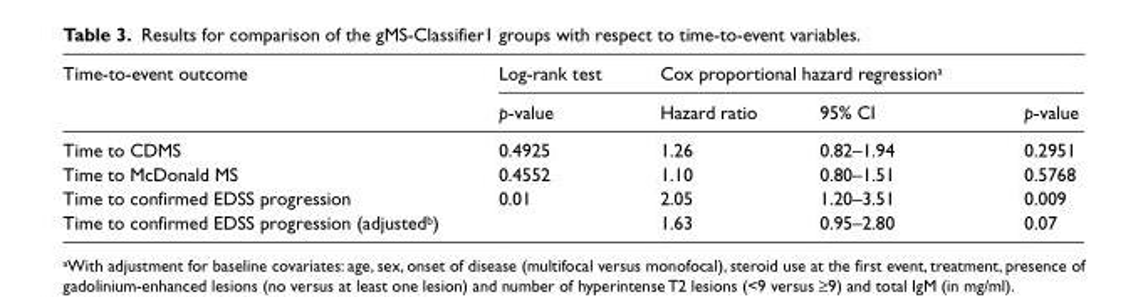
<table><thead><tr><td rowspan="2">Time-to-event outcome</td><td rowspan="2">Log-rank test p-value</td><td colspan="3">Cox proportional hazard regression<sup>a</sup></td></tr><tr><td>Hazard ratio</td><td>95% CI</td><td>p-value</td></tr></thead><tbody><tr><td>Time to CDMS</td><td>0.4925</td><td>1.26</td><td>0.82–1.94</td><td>0.2951</td></tr><tr><td>Time to McDonald MS</td><td>0.4552</td><td>1.10</td><td>0.80–1.51</td><td>0.5768</td></tr><tr><td>Time to confirmed EDSS progression</td><td>0.01</td><td>2.05</td><td>1.20–3.51</td><td>0.009</td></tr><tr><td>Time to confirmed EDSS progression (adjusted<sup>b</sup>)</td><td></td><td>1.63</td><td>0.95–2.80</td><td>0.07</td></tr></tbody></table>